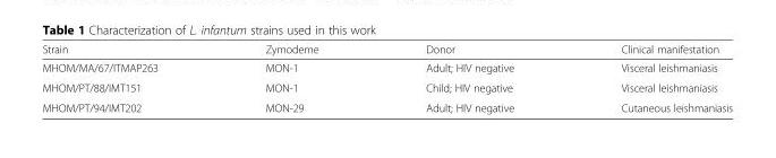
<table><thead><tr><td>Strain</td><td>Zymodeme</td><td>Donor</td><td>Clinical manifestation</td></tr></thead><tbody><tr><td>MHOM/MA/67/ITMAP263</td><td>MON-1</td><td>Adult; HIV negative</td><td>Visceral leishmaniasis</td></tr><tr><td>MHOM/PT/88/IMT151</td><td>MON-1</td><td>Child; HIV negative</td><td>Visceral leishmaniasis</td></tr><tr><td>MHOM/PT/94/IMT202</td><td>MON-29</td><td>Adult; HIV negative</td><td>Cutaneous leishmaniasis</td></tr></tbody></table>